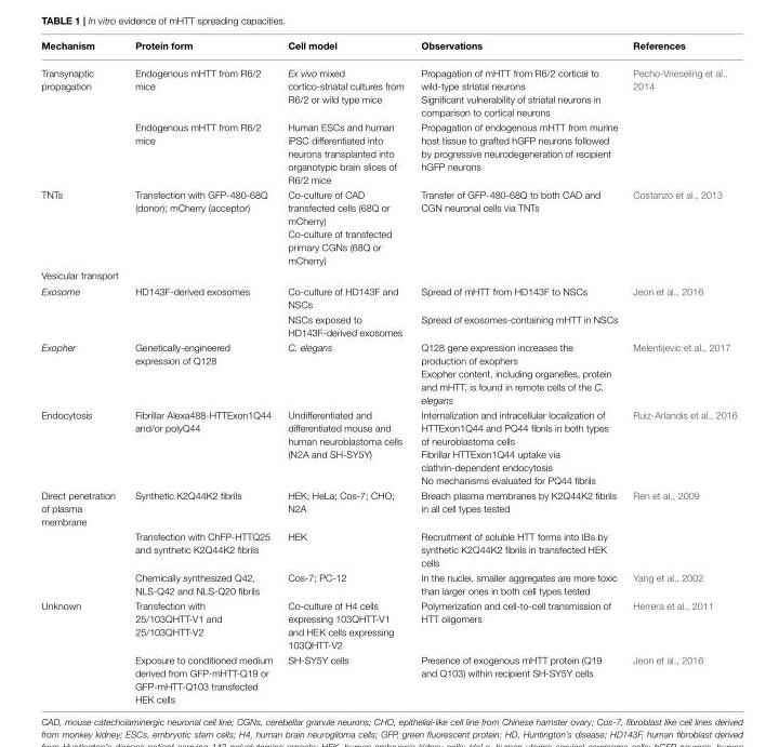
<table><thead><tr><td>Mechanism</td><td>Protein form</td><td>Cell model</td><td>Observations</td><td>References</td></tr></thead><tbody><tr><td rowspan="2">Transynaptic propagation</td><td>Endogenous mHTT from R6/2 mice</td><td>Ex vivo mixed cortico-striatal cultures from R6/2 or wild type mice</td><td>Propagation of mHTT from R6/2 cortical to wild-type striatal neurons Significant vulnerability of striatal neurons in comparison to cortical neurons</td><td>Pecho-Vrieseling et al., 2014</td></tr><tr><td>Endogenous mHTT from R6/2 mice</td><td>Human ESCs and human iPSC differentiated into neurons transplanted into organotypic brain slices of R6/2 mice</td><td>Propagation of endogenous mHTT from murine host tissue to grafted hGFP neurons followed by progressive neurodegeneration of recipient hGFP neurons</td><td></td></tr><tr><td>TNTs</td><td>Transfection with GFP-480-68Q (donor); mCherry (acceptor)</td><td>Co-culture of CAD transfected cells (68Q or mCherry) Co-culture of transfected primary CGNs (68Q or mCherry)</td><td>Transfer of GFP-480-68Q to both CAD and CGN neuronal cells via TNTs</td><td>Costanzo et al., 2013</td></tr><tr><td colspan="5">Vesicular transport</td></tr><tr><td rowspan="2">Exosome</td><td>HD143F-derived exosomes</td><td>Co-culture of HD143F and NSCs</td><td>Spread of mHTT from HD143F to NSCs</td><td>Jeon et al., 2016</td></tr><tr><td></td><td>NSCs exposed to HD143F-derived exosomes</td><td>Spread of exosomes-containing mHTT in NSCs</td><td></td></tr><tr><td>Exopher</td><td>Genetically-engineered expression of Q128</td><td>C. elegans</td><td>Q128 gene expression increases the production of exophers Exopher content, including organelles, protein and mHTT, is found in remote cells of the C. elegans</td><td>Melentijevic et al., 2017</td></tr><tr><td>Endocytosis</td><td>Fibrillar Alexa488-HTTExon1Q44 and/or polyQ44</td><td>Undifferentiated and differentiated mouse and human neuroblastoma cells (N2A and SH-SY5Y)</td><td>Internalization and intracellular localization of HTTExon1Q44 and PQ44 fibrils in both types of neuroblastoma cells Fibrillar HTTExon1Q44 uptake via clathrin-dependent endocytosis No mechanisms evaluated for PQ44 fibrils</td><td>Ruiz-Arlandis et al., 2016</td></tr><tr><td rowspan="3">Direct penetration of plasma membrane</td><td>Synthetic K2Q44K2 fibrils</td><td>HEK; HeLa; Cos-7; CHO; N2A</td><td>Breach plasma membranes by K2Q44K2 fibrils in all cell types tested</td><td>Ren et al., 2009</td></tr><tr><td>Transfection with ChFP-HTTQ25 and synthetic K2Q44K2 fibrils</td><td>HEK</td><td>Recruitment of soluble HTT forms into IBs by synthetic K2Q44K2 fibrils in transfected HEK cells</td><td></td></tr><tr><td>Chemically synthesized Q42, NLS-Q42 and NLS-Q20 fibrils</td><td>Cos-7; PC-12</td><td>In the nuclei, smaller aggregates are more toxic than larger ones in both cell types tested</td><td>Yang et al., 2002</td></tr><tr><td rowspan="2">Unknown</td><td>Transfection with 25/103QHTT-V1 and 25/103QHTT-V2</td><td>Co-culture of H4 cells expressing 103QHTT-V1 and HEK cells expressing 103QHTT-V2</td><td>Polymerization and cell-to-cell transmission of HTT oligomers</td><td>Herrera et al., 2011</td></tr><tr><td>Exposure to conditioned medium derived from GFP-mHTT-Q19 or GFP-mHTT-Q103 transfected HEK cells</td><td>SH-SY5Y cells</td><td>Presence of exogenous mHTT protein (Q19 and Q103) within recipient SH-SY5Y cells</td><td>Jeon et al., 2016</td></tr></tbody></table>